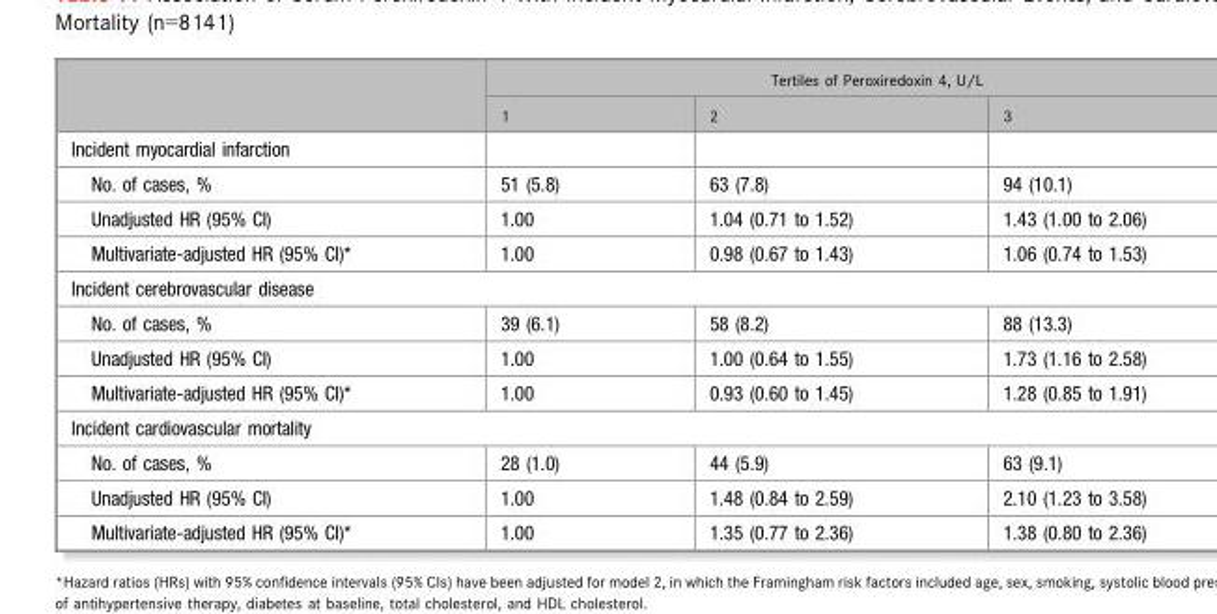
<table><thead><tr><td rowspan="2"></td><td colspan="3">Tertiles of Peroxiredoxin 4, U/L</td></tr><tr><td>1</td><td>2</td><td>3</td></tr></thead><tbody><tr><td colspan="4">Incident myocardial infarction</td></tr><tr><td>No. of cases, %</td><td>51 (5.8)</td><td>63 (7.8)</td><td>94 (10.1)</td></tr><tr><td>Unadjusted HR (95% CI)</td><td>1.00</td><td>1.04 (0.71 to 1.52)</td><td>1.43 (1.00 to 2.06)</td></tr><tr><td>Multivariate-adjusted HR (95% CI)*</td><td>1.00</td><td>0.98 (0.67 to 1.43)</td><td>1.06 (0.74 to 1.53)</td></tr><tr><td colspan="4">Incident cerebrovascular disease</td></tr><tr><td>No. of cases, %</td><td>39 (6.1)</td><td>58 (8.2)</td><td>88 (13.3)</td></tr><tr><td>Unadjusted HR (95% CI)</td><td>1.00</td><td>1.00 (0.64 to 1.55)</td><td>1.73 (1.16 to 2.58)</td></tr><tr><td>Multivariate-adjusted HR (95% CI)*</td><td>1.00</td><td>0.93 (0.60 to 1.45)</td><td>1.28 (0.85 to 1.91)</td></tr><tr><td colspan="4">Incident cardiovascular mortality</td></tr><tr><td>No. of cases, %</td><td>28 (1.0)</td><td>44 (5.9)</td><td>63 (9.1)</td></tr><tr><td>Unadjusted HR (95% CI)</td><td>1.00</td><td>1.48 (0.84 to 2.59)</td><td>2.10 (1.23 to 3.58)</td></tr><tr><td>Multivariate-adjusted HR (95% CI)*</td><td>1.00</td><td>1.35 (0.77 to 2.36)</td><td>1.38 (0.80 to 2.36)</td></tr></tbody></table>